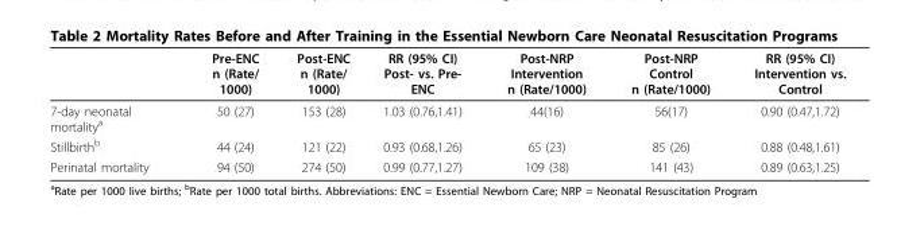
<table><thead><tr><td></td><td>Pre-ENC n (Rate/ 1000)</td><td>Post-ENC n (Rate/ 1000)</td><td>RR (95% CI) Post- vs. Pre- ENC</td><td>Post-NRP Intervention n (Rate/1000)</td><td>Post-NRP Control n (Rate/1000)</td><td>RR (95% CI) Intervention vs. Control</td></tr></thead><tbody><tr><td>7-day neonatal mortality<sup>a</sup></td><td>50 (27)</td><td>153 (28)</td><td>1.03 (0.76,1.41)</td><td>44(16)</td><td>56(17)</td><td>0.90 (0.47,1.72)</td></tr><tr><td>Stillbirth<sup>b</sup></td><td>44 (24)</td><td>121 (22)</td><td>0.93 (0.68,1.26)</td><td>65 (23)</td><td>85 (26)</td><td>0.88 (0.48,1.61)</td></tr><tr><td>Perinatal mortality</td><td>94 (50)</td><td>274 (50)</td><td>0.99 (0.77,1.27)</td><td>109 (38)</td><td>141 (43)</td><td>0.89 (0.63,1.25)</td></tr></tbody></table>